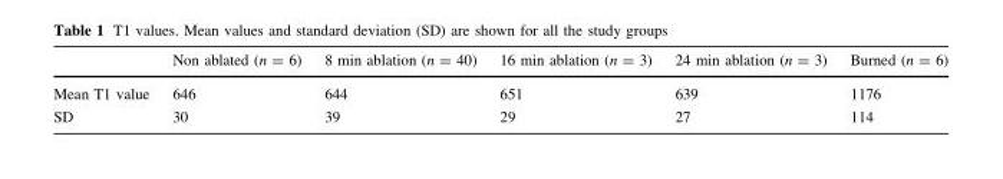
<table><thead><tr><td></td><td>Non ablated (n = 6)</td><td>8 min ablation (n = 40)</td><td>16 min ablation (n = 3)</td><td>24 min ablation (n = 3)</td><td>Burned (n = 6)</td></tr></thead><tbody><tr><td>Mean T1 value</td><td>646</td><td>644</td><td>651</td><td>639</td><td>1176</td></tr><tr><td>SD</td><td>30</td><td>39</td><td>29</td><td>27</td><td>114</td></tr></tbody></table>